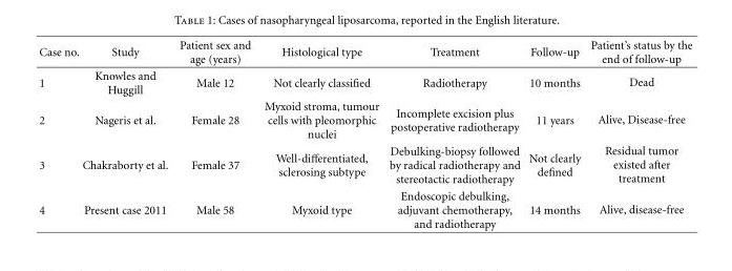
<table><thead><tr><td>Case no.</td><td>Study</td><td>Patient sex and age (years)</td><td>Histological type</td><td>Treatment</td><td>Follow-up</td><td>Patient’s status by the end of follow-up</td></tr></thead><tbody><tr><td>1</td><td>Knowles and Huggill</td><td>Male 12</td><td>Not clearly classified</td><td>Radiotherapy</td><td>10 months</td><td>Dead</td></tr><tr><td>2</td><td>Nageris et al.</td><td>Female 28</td><td>Myxoid stroma, tumour cells with pleomorphic nuclei</td><td>Incomplete excision plus postoperative radiotherapy</td><td>11 years</td><td>Alive, Disease-free</td></tr><tr><td>3</td><td>Chakraborty et al.</td><td>Female 37</td><td>Well-differentiated, sclerosing subtype</td><td>Debulking-biopsy followed by radical radiotherapy and stereotactic radiotherapy</td><td>Not clearly defined</td><td>Residual tumor existed after treatment</td></tr><tr><td>4</td><td>Present case 2011</td><td>Male 58</td><td>Myxoid type</td><td>Endoscopic debulking, adjuvant chemotherapy, and radiotherapy</td><td>14 months</td><td>Alive, disease-free</td></tr></tbody></table>